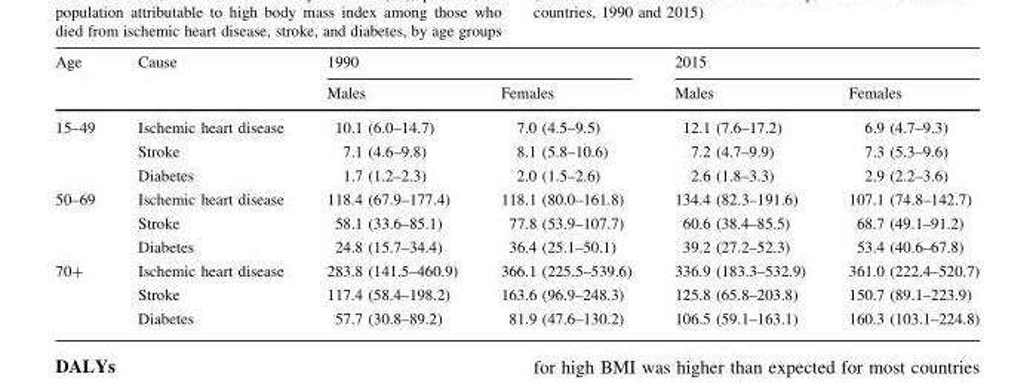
<table><thead><tr><td rowspan="2">Age</td><td rowspan="2">Cause</td><td colspan="2">1990</td><td colspan="2">2015</td></tr><tr><td>Males</td><td>Females</td><td>Males</td><td>Females</td></tr></thead><tbody><tr><td rowspan="3">15–49</td><td>Ischemic heart disease</td><td>10.1 (6.0–14.7)</td><td>7.0 (4.5–9.5)</td><td>12.1 (7.6–17.2)</td><td>6.9 (4.7–9.3)</td></tr><tr><td>Stroke</td><td>7.1 (4.6–9.8)</td><td>8.1 (5.8–10.6)</td><td>7.2 (4.7–9.9)</td><td>7.3 (5.3–9.6)</td></tr><tr><td>Diabetes</td><td>1.7 (1.2–2.3)</td><td>2.0 (1.5–2.6)</td><td>2.6 (1.8–3.3)</td><td>2.9 (2.2–3.6)</td></tr><tr><td rowspan="3">50–69</td><td>Ischemic heart disease</td><td>118.4 (67.9–177.4)</td><td>118.1 (80.0–161.8)</td><td>134.4 (82.3–191.6)</td><td>107.1 (74.8–142.7)</td></tr><tr><td>Stroke</td><td>58.1 (33.6–85.1)</td><td>77.8 (53.9–107.7)</td><td>60.6 (38.4–85.5)</td><td>68.7 (49.1–91.2)</td></tr><tr><td>Diabetes</td><td>24.8 (15.7–34.4)</td><td>36.4 (25.1–50.1)</td><td>39.2 (27.2–52.3)</td><td>53.4 (40.6–67.8)</td></tr><tr><td rowspan="3">70+</td><td>Ischemic heart disease</td><td>283.8 (141.5–460.9)</td><td>366.1 (225.5–539.6)</td><td>336.9 (183.3–532.9)</td><td>361.0 (222.4–520.7)</td></tr><tr><td>Stroke</td><td>117.4 (58.4–198.2)</td><td>163.6 (96.9–248.3)</td><td>125.8 (65.8–203.8)</td><td>150.7 (89.1–223.9)</td></tr><tr><td>Diabetes</td><td>57.7 (30.8–89.2)</td><td>81.9 (47.6–130.2)</td><td>106.5 (59.1–163.1)</td><td>160.3 (103.1–224.8)</td></tr></tbody></table>